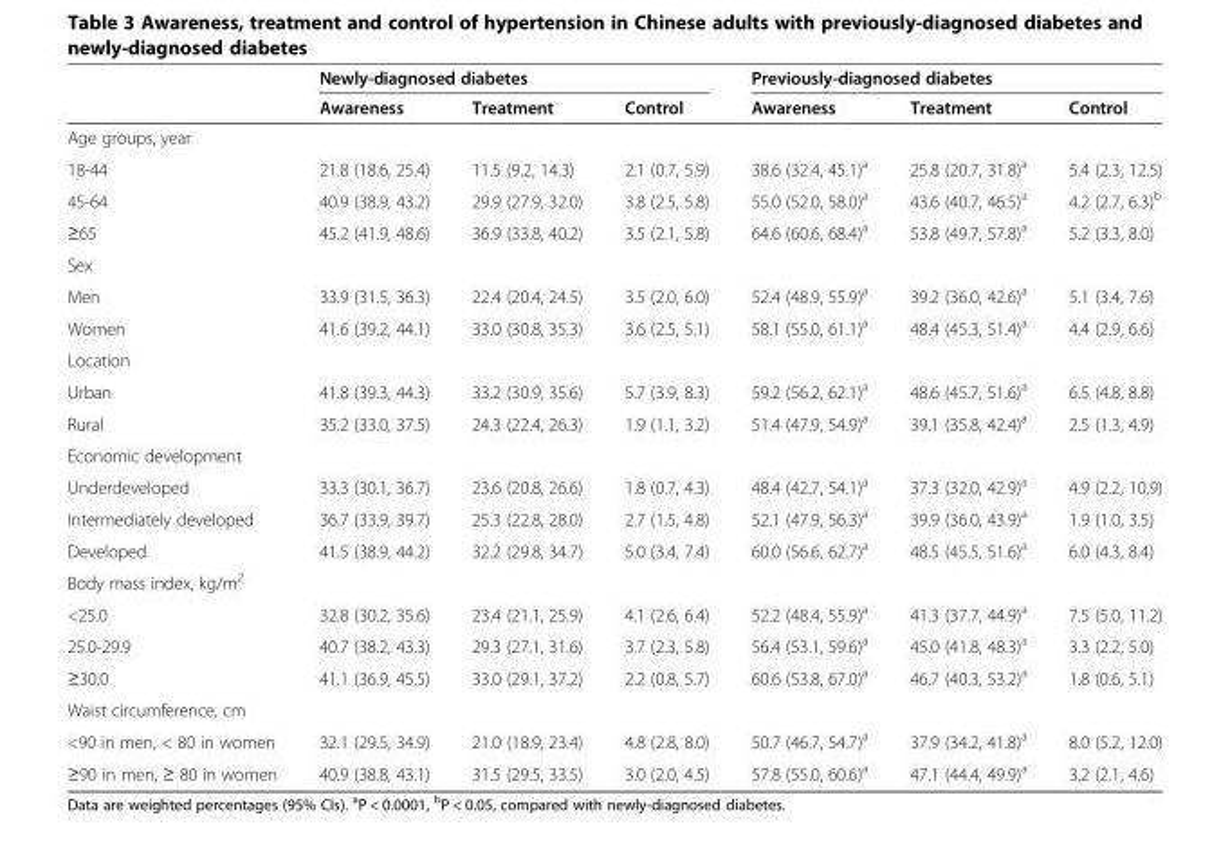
<table><thead><tr><td rowspan="2"></td><td colspan="3">Newly-diagnosed diabetes</td><td colspan="3">Previously-diagnosed diabetes</td></tr><tr><td>Awareness</td><td>Treatment</td><td>Control</td><td>Awareness</td><td>Treatment</td><td>Control</td></tr></thead><tbody><tr><td colspan="7">Age groups, year</td></tr><tr><td>18-44</td><td>21.8 (18.6, 25.4)</td><td>11.5 (9.2, 14.3)</td><td>2.1 (0.7, 5.9)</td><td>38.6 (32.4, 45.1)<sup>a</sup></td><td>25.8 (20.7, 31.8)<sup>a</sup></td><td>5.4 (2.3, 12.5)</td></tr><tr><td>45-64</td><td>40.9 (38.9, 43.2)</td><td>29.9 (27.9, 32.0)</td><td>3.8 (2.5, 5.8)</td><td>55.0 (52.0, 58.0)<sup>a</sup></td><td>43.6 (40.7, 46.5)<sup>a</sup></td><td>4.2 (2.7, 6.3)<sup>b</sup></td></tr><tr><td>≥65</td><td>45.2 (41.9, 48.6)</td><td>36.9 (33.8, 40.2)</td><td>3.5 (2.1, 5.8)</td><td>64.6 (60.6, 68.4)<sup>a</sup></td><td>53.8 (49.7, 57.8)<sup>a</sup></td><td>5.2 (3.3, 8.0)</td></tr><tr><td colspan="7">Sex</td></tr><tr><td>Men</td><td>33.9 (31.5, 36.3)</td><td>22.4 (20.4, 24.5)</td><td>3.5 (2.0, 6.0)</td><td>52.4 (48.9, 55.9)<sup>a</sup></td><td>39.2 (36.0, 42.6)<sup>a</sup></td><td>5.1 (3.4, 7.6)</td></tr><tr><td>Women</td><td>41.6 (39.2, 44.1)</td><td>33.0 (30.8, 35.3)</td><td>3.6 (2.5, 5.1)</td><td>58.1 (55.0, 61.1)<sup>a</sup></td><td>48.4 (45.3, 51.4)<sup>a</sup></td><td>4.4 (2.9, 6.6)</td></tr><tr><td colspan="7">Location</td></tr><tr><td>Urban</td><td>41.8 (39.3, 44.3)</td><td>33.2 (30.9, 35.6)</td><td>5.7 (3.9, 8.3)</td><td>59.2 (56.2, 62.1)<sup>a</sup></td><td>48.6 (45.7, 51.6)<sup>a</sup></td><td>6.5 (4.8, 8.8)</td></tr><tr><td>Rural</td><td>35.2 (33.0, 37.5)</td><td>24.3 (22.4, 26.3)</td><td>1.9 (1.1, 3.2)</td><td>51.4 (47.9, 54.9)<sup>a</sup></td><td>39.1 (35.8, 42.4)<sup>a</sup></td><td>2.5 (1.3, 4.9)</td></tr><tr><td colspan="7">Economic development</td></tr><tr><td>Underdeveloped</td><td>33.3 (30.1, 36.7)</td><td>23.6 (20.8, 26.6)</td><td>1.8 (0.7, 4.3)</td><td>48.4 (42.7, 54.1)<sup>a</sup></td><td>37.3 (32.0, 42.9)<sup>a</sup></td><td>4.9 (2.2, 10.9)</td></tr><tr><td>Intermediately developed</td><td>36.7 (33.9, 39.7)</td><td>25.3 (22.8, 28.0)</td><td>2.7 (1.5, 4.8)</td><td>52.1 (47.9, 56.3)<sup>a</sup></td><td>39.9 (36.0, 43.9)<sup>a</sup></td><td>1.9 (1.0, 3.5)</td></tr><tr><td>Developed</td><td>41.5 (38.9, 44.2)</td><td>32.2 (29.8, 34.7)</td><td>5.0 (3.4, 7.4)</td><td>60.0 (56.6, 62.7)<sup>a</sup></td><td>48.5 (45.5, 51.6)<sup>a</sup></td><td>6.0 (4.3, 8.4)</td></tr><tr><td colspan="7">Body mass index, kg/m<sup>2</sup></td></tr><tr><td>&lt;25.0</td><td>32.8 (30.2, 35.6)</td><td>23.4 (21.1, 25.9)</td><td>4.1 (2.6, 6.4)</td><td>52.2 (48.4, 55.9)<sup>a</sup></td><td>41.3 (37.7, 44.9)<sup>a</sup></td><td>7.5 (5.0, 11.2)</td></tr><tr><td>25.0-29.9</td><td>40.7 (38.2, 43.3)</td><td>29.3 (27.1, 31.6)</td><td>3.7 (2.3, 5.8)</td><td>56.4 (53.1, 59.6)<sup>a</sup></td><td>45.0 (41.8, 48.3)<sup>a</sup></td><td>3.3 (2.2, 5.0)</td></tr><tr><td>≥30.0</td><td>41.1 (36.9, 45.5)</td><td>33.0 (29.1, 37.2)</td><td>2.2 (0.8, 5.7)</td><td>60.6 (53.8, 67.0)<sup>a</sup></td><td>46.7 (40.3, 53.2)<sup>a</sup></td><td>1.8 (0.6, 5.1)</td></tr><tr><td colspan="7">Waist circumference, cm</td></tr><tr><td>&lt;90 in men, &lt; 80 in women</td><td>32.1 (29.5, 34.9)</td><td>21.0 (18.9, 23.4)</td><td>4.8 (2.8, 8.0)</td><td>50.7 (46.7, 54.7)<sup>a</sup></td><td>37.9 (34.2, 41.8)<sup>a</sup></td><td>8.0 (5.2, 12.0)</td></tr><tr><td>≥90 in men, ≥ 80 in women</td><td>40.9 (38.8, 43.1)</td><td>31.5 (29.5, 33.5)</td><td>3.0 (2.0, 4.5)</td><td>57.8 (55.0, 60.6)<sup>a</sup></td><td>47.1 (44.4, 49.9)<sup>a</sup></td><td>3.2 (2.1, 4.6)</td></tr></tbody></table>